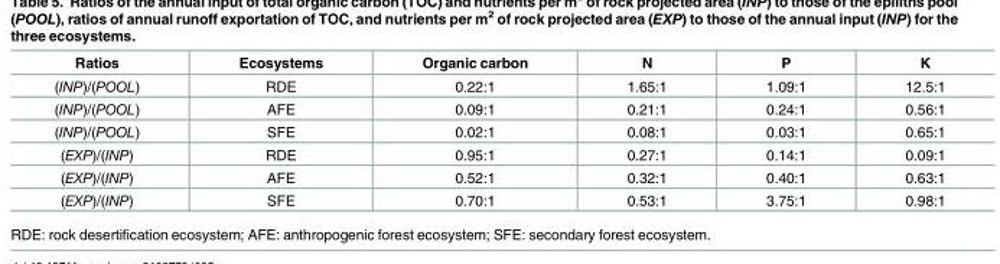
<table><thead><tr><td>Ratios</td><td>Ecosystems</td><td>Organic carbon</td><td>N</td><td>P</td><td>K</td></tr></thead><tbody><tr><td>(INP)/(POOL)</td><td>RDE</td><td>0.22:1</td><td>1.65:1</td><td>1.09:1</td><td>12.5:1</td></tr><tr><td>(INP)/(POOL)</td><td>AFE</td><td>0.09:1</td><td>0.21:1</td><td>0.24:1</td><td>0.56:1</td></tr><tr><td>(INP)/(POOL)</td><td>SFE</td><td>0.02:1</td><td>0.08:1</td><td>0.03:1</td><td>0.65:1</td></tr><tr><td>(EXP)/(INP)</td><td>RDE</td><td>0.95:1</td><td>0.27:1</td><td>0.14:1</td><td>0.09:1</td></tr><tr><td>(EXP)/(INP)</td><td>AFE</td><td>0.52:1</td><td>0.32:1</td><td>0.40:1</td><td>0.63:1</td></tr><tr><td>(EXP)/(INP)</td><td>SFE</td><td>0.70:1</td><td>0.53:1</td><td>3.75:1</td><td>0.98:1</td></tr></tbody></table>